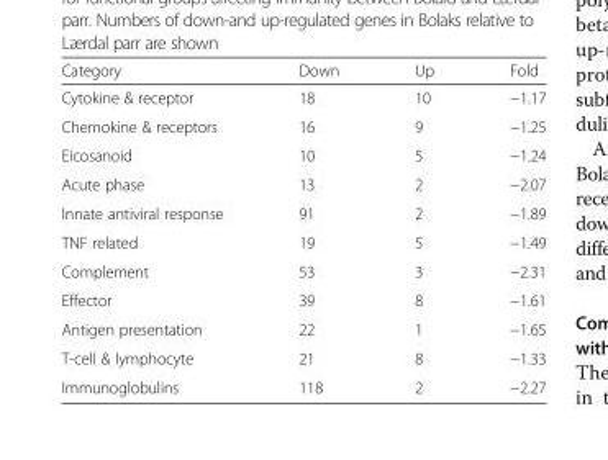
<table><thead><tr><td>Category</td><td>Down</td><td>Up</td><td>Fold</td></tr></thead><tbody><tr><td>Cytokine &amp; receptor</td><td>18</td><td>10</td><td>−1.17</td></tr><tr><td>Chemokine &amp; receptors</td><td>16</td><td>9</td><td>−1.25</td></tr><tr><td>Eicosanoid</td><td>10</td><td>5</td><td>−1.24</td></tr><tr><td>Acute phase</td><td>13</td><td>2</td><td>−2.07</td></tr><tr><td>Innate antiviral response</td><td>91</td><td>2</td><td>−1.89</td></tr><tr><td>TNF related</td><td>19</td><td>5</td><td>−1.49</td></tr><tr><td>Complement</td><td>53</td><td>3</td><td>−2.31</td></tr><tr><td>Effector</td><td>39</td><td>8</td><td>−1.61</td></tr><tr><td>Antigen presentation</td><td>22</td><td>1</td><td>−1.65</td></tr><tr><td>T-cell &amp; lymphocyte</td><td>21</td><td>8</td><td>−1.33</td></tr><tr><td>Immunoglobulins</td><td>118</td><td>2</td><td>−2.27</td></tr></tbody></table>